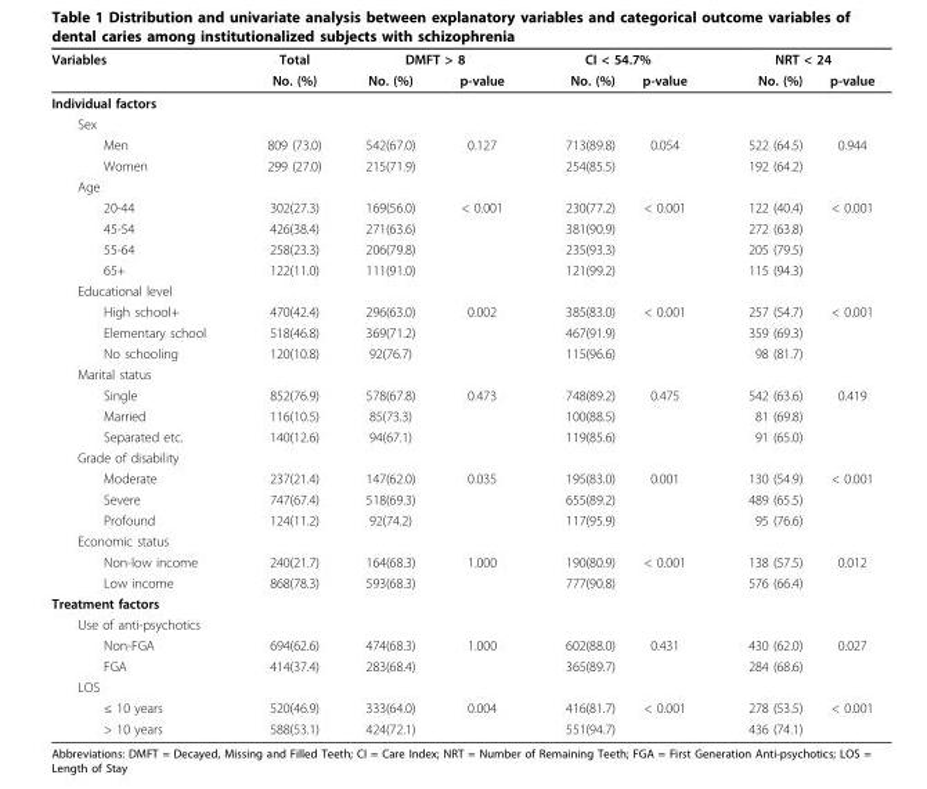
<table><thead><tr><td rowspan="2">Variables</td><td rowspan="2">Total No. (%)</td><td colspan="2">DMFT &gt; 8</td><td colspan="2">CI &lt; 54.7%</td><td colspan="2">NRT &lt; 24</td></tr><tr><td>No. (%)</td><td>p-value</td><td>No. (%)</td><td>p-value</td><td>No. (%)</td><td>p-value</td></tr></thead><tbody><tr><td colspan="8">Individual factors</td></tr><tr><td colspan="8">Sex</td></tr><tr><td>Men</td><td>809 (73.0)</td><td>542(67.0)</td><td>0.127</td><td>713(89.8)</td><td>0.054</td><td>522 (64.5)</td><td>0.944</td></tr><tr><td>Women</td><td>299 (27.0)</td><td>215(71.9)</td><td></td><td>254(85.5)</td><td></td><td>192 (64.2)</td><td></td></tr><tr><td colspan="8">Age</td></tr><tr><td>20-44</td><td>302(27.3)</td><td>169(56.0)</td><td>&lt; 0.001</td><td>230(77.2)</td><td>&lt; 0.001</td><td>122 (40.4)</td><td>&lt; 0.001</td></tr><tr><td>45-54</td><td>426(38.4)</td><td>271(63.6)</td><td></td><td>381(90.9)</td><td></td><td>272 (63.8)</td><td></td></tr><tr><td>55-64</td><td>258(23.3)</td><td>206(79.8)</td><td></td><td>235(93.3)</td><td></td><td>205 (79.5)</td><td></td></tr><tr><td>65+</td><td>122(11.0)</td><td>111(91.0)</td><td></td><td>121(99.2)</td><td></td><td>115 (94.3)</td><td></td></tr><tr><td colspan="8">Educational level</td></tr><tr><td>High school+</td><td>470(42.4)</td><td>296(63.0)</td><td>0.002</td><td>385(83.0)</td><td>&lt; 0.001</td><td>257 (54.7)</td><td>&lt; 0.001</td></tr><tr><td>Elementary school</td><td>518(46.8)</td><td>369(71.2)</td><td></td><td>467(91.9)</td><td></td><td>359 (69.3)</td><td></td></tr><tr><td>No schooling</td><td>120(10.8)</td><td>92(76.7)</td><td></td><td>115(96.6)</td><td></td><td>98 (81.7)</td><td></td></tr><tr><td colspan="8">Marital status</td></tr><tr><td>Single</td><td>852(76.9)</td><td>578(67.8)</td><td>0.473</td><td>748(89.2)</td><td>0.475</td><td>542 (63.6)</td><td>0.419</td></tr><tr><td>Married</td><td>116(10.5)</td><td>85(73.3)</td><td></td><td>100(88.5)</td><td></td><td>81 (69.8)</td><td></td></tr><tr><td>Separated etc.</td><td>140(12.6)</td><td>94(67.1)</td><td></td><td>119(85.6)</td><td></td><td>91 (65.0)</td><td></td></tr><tr><td colspan="8">Grade of disability</td></tr><tr><td>Moderate</td><td>237(21.4)</td><td>147(62.0)</td><td>0.035</td><td>195(83.0)</td><td>0.001</td><td>130 (54.9)</td><td>&lt; 0.001</td></tr><tr><td>Severe</td><td>747(67.4)</td><td>518(69.3)</td><td></td><td>655(89.2)</td><td></td><td>489 (65.5)</td><td></td></tr><tr><td>Profound</td><td>124(11.2)</td><td>92(74.2)</td><td></td><td>117(95.9)</td><td></td><td>95 (76.6)</td><td></td></tr><tr><td colspan="8">Economic status</td></tr><tr><td>Non-low income</td><td>240(21.7)</td><td>164(68.3)</td><td>1.000</td><td>190(80.9)</td><td>&lt; 0.001</td><td>138 (57.5)</td><td>0.012</td></tr><tr><td>Low income</td><td>868(78.3)</td><td>593(68.3)</td><td></td><td>777(90.8)</td><td></td><td>576 (66.4)</td><td></td></tr><tr><td colspan="8">Treatment factors</td></tr><tr><td colspan="8">Use of anti-psychotics</td></tr><tr><td>Non-FGA</td><td>694(62.6)</td><td>474(68.3)</td><td>1.000</td><td>602(88.0)</td><td>0.431</td><td>430 (62.0)</td><td>0.027</td></tr><tr><td>FGA</td><td>414(37.4)</td><td>283(68.4)</td><td></td><td>365(89.7)</td><td></td><td>284 (68.6)</td><td></td></tr><tr><td colspan="8">LOS</td></tr><tr><td>≤ 10 years</td><td>520(46.9)</td><td>333(64.0)</td><td>0.004</td><td>416(81.7)</td><td>&lt; 0.001</td><td>278 (53.5)</td><td>&lt; 0.001</td></tr><tr><td>&gt; 10 years</td><td>588(53.1)</td><td>424(72.1)</td><td></td><td>551(94.7)</td><td></td><td>436 (74.1)</td><td></td></tr></tbody></table>